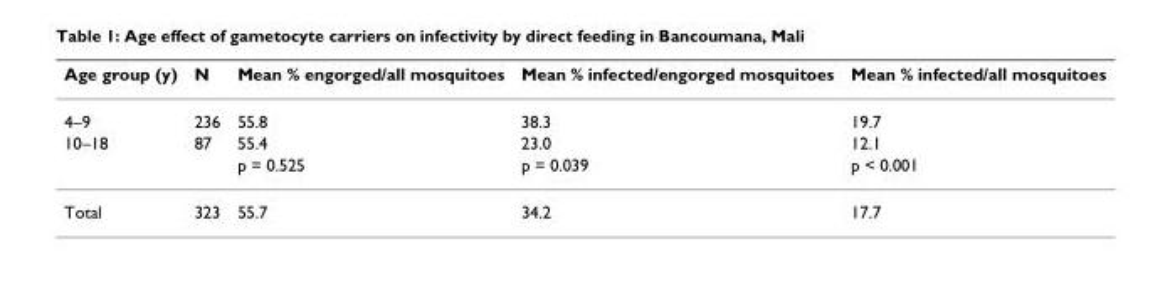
<table><thead><tr><td>Age group (y)</td><td>N</td><td>Mean % engorged/all mosquitoes</td><td>Mean % infected/engorged mosquitoes</td><td>Mean % infected/all mosquitoes</td></tr></thead><tbody><tr><td>4–9</td><td>236</td><td>55.8</td><td>38.3</td><td>19.7</td></tr><tr><td rowspan="2">10–18</td><td>87</td><td>55.4</td><td>23.0</td><td>12.1</td></tr><tr><td></td><td>p = 0.525</td><td>p = 0.039</td><td>p &lt; 0.001</td></tr><tr><td>Total</td><td>323</td><td>55.7</td><td>34.2</td><td>17.7</td></tr></tbody></table>